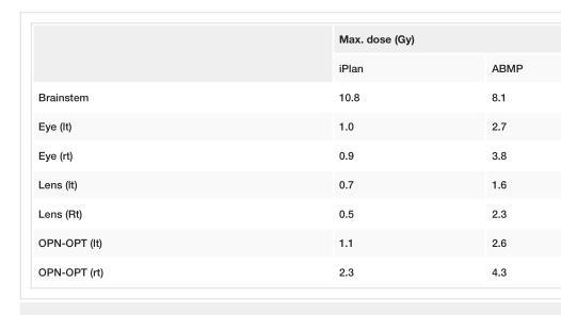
<table><thead><tr><td rowspan="2"></td><td colspan="2">Max. dose (Gy)</td></tr><tr><td>iPlan</td><td>ABMP</td></tr></thead><tbody><tr><td>Brainstem</td><td>10.8</td><td>8.1</td></tr><tr><td>Eye (lt)</td><td>1.0</td><td>2.7</td></tr><tr><td>Eye (rt)</td><td>0.9</td><td>3.8</td></tr><tr><td>Lens (lt)</td><td>0.7</td><td>1.6</td></tr><tr><td>Lens (Rt)</td><td>0.5</td><td>2.3</td></tr><tr><td>OPN-OPT (lt)</td><td>1.1</td><td>2.6</td></tr><tr><td>OPN-OPT (rt)</td><td>2.3</td><td>4.3</td></tr></tbody></table>